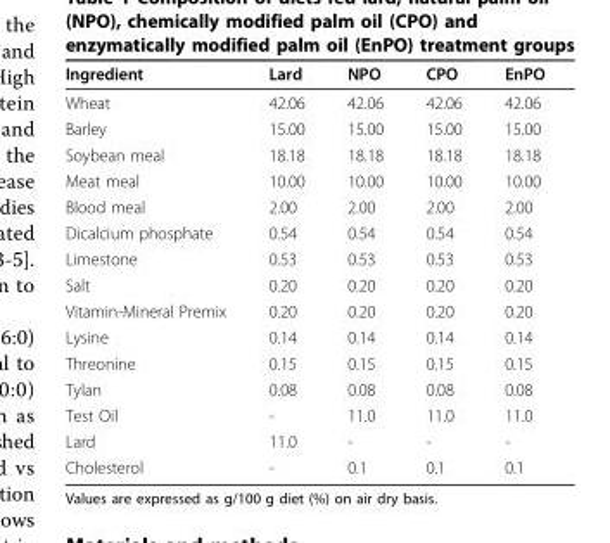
<table><thead><tr><td>Ingredient</td><td>Lard</td><td>NPO</td><td>CPO</td><td>EnPO</td></tr></thead><tbody><tr><td>Wheat</td><td>42.06</td><td>42.06</td><td>42.06</td><td>42.06</td></tr><tr><td>Barley</td><td>15.00</td><td>15.00</td><td>15.00</td><td>15.00</td></tr><tr><td>Soybean meal</td><td>18.18</td><td>18.18</td><td>18.18</td><td>18.18</td></tr><tr><td>Meat meal</td><td>10.00</td><td>10.00</td><td>10.00</td><td>10.00</td></tr><tr><td>Blood meal</td><td>2.00</td><td>2.00</td><td>2.00</td><td>2.00</td></tr><tr><td>Dicalcium phosphate</td><td>0.54</td><td>0.54</td><td>0.54</td><td>0.54</td></tr><tr><td>Limestone</td><td>0.53</td><td>0.53</td><td>0.53</td><td>0.53</td></tr><tr><td>Salt</td><td>0.20</td><td>0.20</td><td>0.20</td><td>0.20</td></tr><tr><td>Vitamin-Mineral Premix</td><td>0.20</td><td>0.20</td><td>0.20</td><td>0.20</td></tr><tr><td>Lysine</td><td>0.14</td><td>0.14</td><td>0.14</td><td>0.14</td></tr><tr><td>Threonine</td><td>0.15</td><td>0.15</td><td>0.15</td><td>0.15</td></tr><tr><td>Tylan</td><td>0.08</td><td>0.08</td><td>0.08</td><td>0.08</td></tr><tr><td>Test Oil</td><td>-</td><td>11.0</td><td>11.0</td><td>11.0</td></tr><tr><td>Lard</td><td>11.0</td><td>-</td><td>-</td><td>-</td></tr><tr><td>Cholesterol</td><td>-</td><td>0.1</td><td>0.1</td><td>0.1</td></tr></tbody></table>